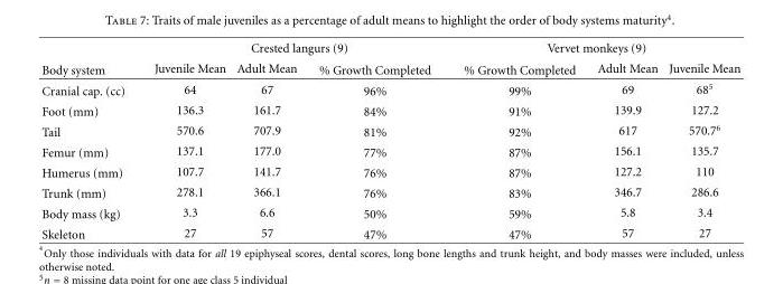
<table><thead><tr><td rowspan="2">Body system</td><td colspan="3">Crested langurs (9)</td><td colspan="3">Vervet monkeys (9)</td></tr><tr><td>Juvenile Mean</td><td>Adult Mean</td><td>% Growth Completed</td><td>% Growth Completed</td><td>Adult Mean</td><td>Juvenile Mean</td></tr></thead><tbody><tr><td>Cranial cap. (cc)</td><td>64</td><td>67</td><td>96%</td><td>99%</td><td>69</td><td>68<sup>5</sup></td></tr><tr><td>Foot (mm)</td><td>136.3</td><td>161.7</td><td>84%</td><td>91%</td><td>139.9</td><td>127.2</td></tr><tr><td>Tail</td><td>570.6</td><td>707.9</td><td>81%</td><td>92%</td><td>617</td><td>570.7<sup>6</sup></td></tr><tr><td>Femur (mm)</td><td>137.1</td><td>177.0</td><td>77%</td><td>87%</td><td>156.1</td><td>135.7</td></tr><tr><td>Humerus (mm)</td><td>107.7</td><td>141.7</td><td>76%</td><td>87%</td><td>127.2</td><td>110</td></tr><tr><td>Trunk (mm)</td><td>278.1</td><td>366.1</td><td>76%</td><td>83%</td><td>346.7</td><td>286.6</td></tr><tr><td>Body mass (kg)</td><td>3.3</td><td>6.6</td><td>50%</td><td>59%</td><td>5.8</td><td>3.4</td></tr><tr><td>Skeleton</td><td>27</td><td>57</td><td>47%</td><td>47%</td><td>57</td><td>27</td></tr></tbody></table>